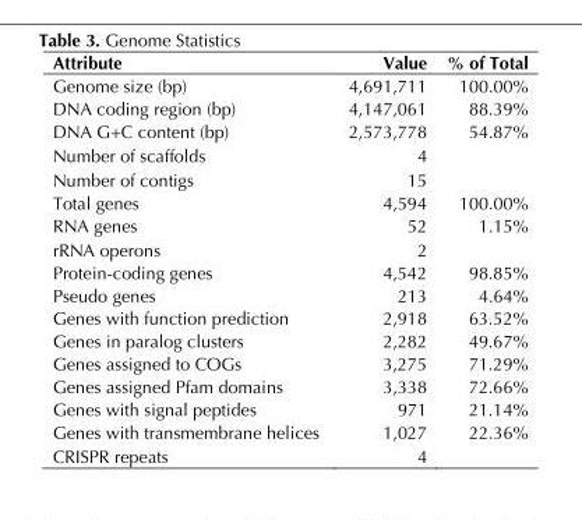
<table><thead><tr><td>Attribute</td><td>Value</td><td>% of Total</td></tr></thead><tbody><tr><td>Genome size (bp)</td><td>4,691,711</td><td>100.00%</td></tr><tr><td>DNA coding region (bp)</td><td>4,147,061</td><td>88.39%</td></tr><tr><td>DNA G+C content (bp)</td><td>2,573,778</td><td>54.87%</td></tr><tr><td>Number of scaffolds</td><td>4</td><td></td></tr><tr><td>Number of contigs</td><td>15</td><td></td></tr><tr><td>Total genes</td><td>4,594</td><td>100.00%</td></tr><tr><td>RNA genes</td><td>52</td><td>1.15%</td></tr><tr><td>rRNA operons</td><td>2</td><td></td></tr><tr><td>Protein-coding genes</td><td>4,542</td><td>98.85%</td></tr><tr><td>Pseudo genes</td><td>213</td><td>4.64%</td></tr><tr><td>Genes with function prediction</td><td>2,918</td><td>63.52%</td></tr><tr><td>Genes in paralog clusters</td><td>2,282</td><td>49.67%</td></tr><tr><td>Genes assigned to COGs</td><td>3,275</td><td>71.29%</td></tr><tr><td>Genes assigned Pfam domains</td><td>3,338</td><td>72.66%</td></tr><tr><td>Genes with signal peptides</td><td>971</td><td>21.14%</td></tr><tr><td>Genes with transmembrane helices</td><td>1,027</td><td>22.36%</td></tr><tr><td>CRISPR repeats</td><td>4</td><td></td></tr></tbody></table>